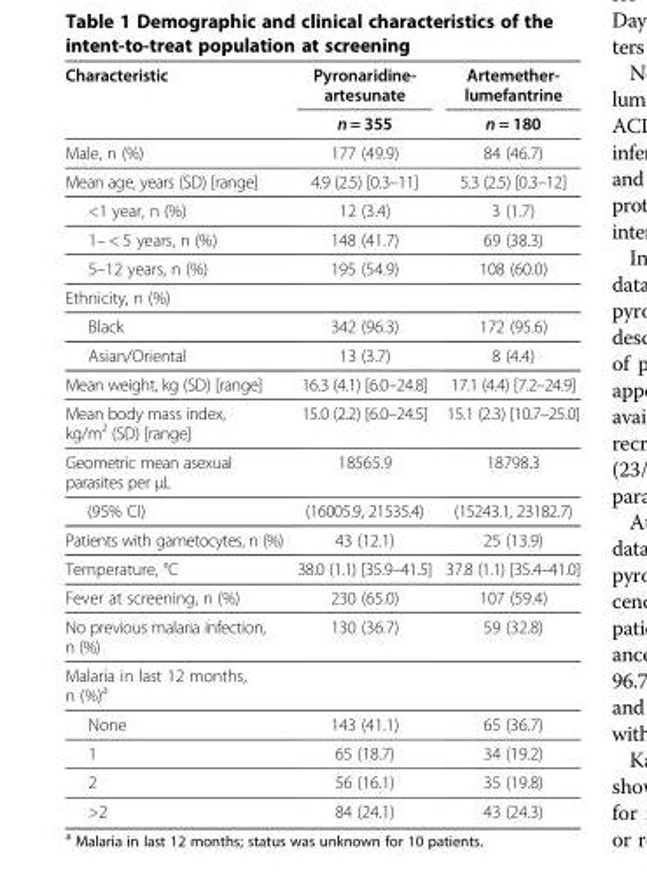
<table><thead><tr><td rowspan="2">Characteristic</td><td rowspan="2">Pyronaridine- artesunate n = 355</td><td rowspan="2">Artemether- lumefantrine n = 180</td></tr><tr></tr></thead><tbody><tr><td>Male, n (%)</td><td>177 (49.9)</td><td>84 (46.7)</td></tr><tr><td>Mean age, years (SD) [range]</td><td>4.9 (2.5) [0.3–11]</td><td>5.3 (2.5) [0.3–12]</td></tr><tr><td>&lt;1 year, n (%)</td><td>12 (3.4)</td><td>3 (1.7)</td></tr><tr><td>1– &lt; 5 years, n (%)</td><td>148 (41.7)</td><td>69 (38.3)</td></tr><tr><td>5–12 years, n (%)</td><td>195 (54.9)</td><td>108 (60.0)</td></tr><tr><td colspan="3">Ethnicity, n (%)</td></tr><tr><td>Black</td><td>342 (96.3)</td><td>172 (95.6)</td></tr><tr><td>Asian/Oriental</td><td>13 (3.7)</td><td>8 (4.4)</td></tr><tr><td>Mean weight, kg (SD) [range]</td><td>16.3 (4.1) [6.0–24.8]</td><td>17.1 (4.4) [7.2–24.9]</td></tr><tr><td>Mean body mass index, kg/m<sup>2</sup> (SD) [range]</td><td>15.0 (2.2) [6.0–24.5]</td><td>15.1 (2.3) [10.7–25.0]</td></tr><tr><td>Geometric mean asexual parasites per μL</td><td>18565.9</td><td>18798.3</td></tr><tr><td>(95% CI)</td><td>(16005.9, 21535.4)</td><td>(15243.1, 23182.7)</td></tr><tr><td>Patients with gametocytes, n (%)</td><td>43 (12.1)</td><td>25 (13.9)</td></tr><tr><td>Temperature, °C</td><td>38.0 (1.1) [35.9–41.5]</td><td>37.8 (1.1) [35.4–41.0]</td></tr><tr><td>Fever at screening, n (%)</td><td>230 (65.0)</td><td>107 (59.4)</td></tr><tr><td>No previous malaria infection, n (%)</td><td>130 (36.7)</td><td>59 (32.8)</td></tr><tr><td colspan="3">Malaria in last 12 months, n (%)<sup>a</sup></td></tr><tr><td>None</td><td>143 (41.1)</td><td>65 (36.7)</td></tr><tr><td>1</td><td>65 (18.7)</td><td>34 (19.2)</td></tr><tr><td>2</td><td>56 (16.1)</td><td>35 (19.8)</td></tr><tr><td>&gt;2</td><td>84 (24.1)</td><td>43 (24.3)</td></tr></tbody></table>